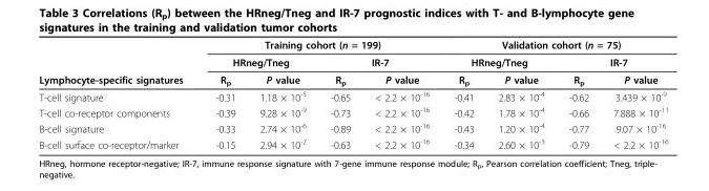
<table><thead><tr><td rowspan="3">Lymphocyte-specific signatures</td><td colspan="4">Training cohort (n = 199)</td><td colspan="4">Validation cohort (n = 75)</td></tr><tr><td colspan="2">HRneg/Tneg</td><td colspan="2">IR-7</td><td colspan="2">HRneg/Tneg</td><td colspan="2">IR-7</td></tr><tr><td>R<sub>p</sub></td><td>P value</td><td>R<sub>p</sub></td><td>P value</td><td>R<sub>p</sub></td><td>P value</td><td>R<sub>p</sub></td><td>P value</td></tr></thead><tbody><tr><td>T-cell signature</td><td>-0.31</td><td>1.18 × 10<sup>-5</sup></td><td>-0.65</td><td>&lt; 2.2 × 10<sup>-16</sup></td><td>-0.41</td><td>2.83 × 10<sup>-4</sup></td><td>-0.62</td><td>3.439 × 10<sup>-9</sup></td></tr><tr><td>T-cell co-receptor components</td><td>-0.39</td><td>9.28 × 10<sup>-9</sup></td><td>-0.73</td><td>&lt; 2.2 × 10<sup>-16</sup></td><td>-0.42</td><td>1.78 × 10<sup>-4</sup></td><td>-0.66</td><td>7.888 × 10<sup>-11</sup></td></tr><tr><td>B-cell signature</td><td>-0.33</td><td>2.74 × 10<sup>-6</sup></td><td>-0.89</td><td>&lt; 2.2 × 10<sup>-16</sup></td><td>-0.43</td><td>1.20 × 10<sup>-4</sup></td><td>-0.77</td><td>9.07 × 10<sup>-16</sup></td></tr><tr><td>B-cell surface co-receptor/marker</td><td>-0.15</td><td>2.94 × 10<sup>-2</sup></td><td>-0.63</td><td>&lt; 2.2 × 10<sup>-16</sup></td><td>-0.34</td><td>2.60 × 10<sup>-3</sup></td><td>-0.79</td><td>&lt; 2.2 × 10<sup>-16</sup></td></tr></tbody></table>